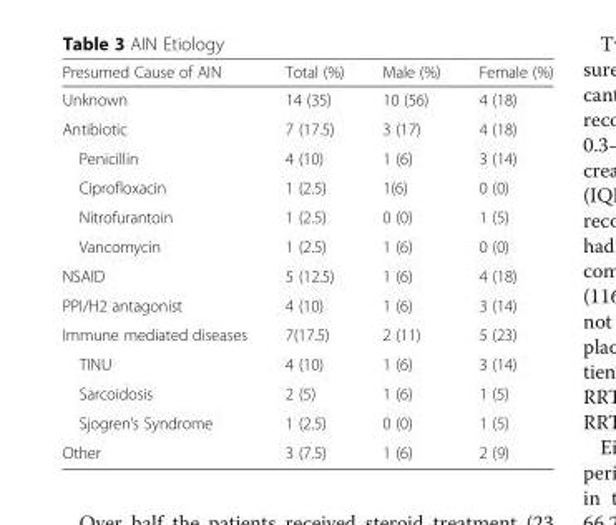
<table><thead><tr><td>Presumed Cause of AIN</td><td>Total (%)</td><td>Male (%)</td><td>Female (%)</td></tr></thead><tbody><tr><td>Unknown</td><td>14 (35)</td><td>10 (56)</td><td>4 (18)</td></tr><tr><td>Antibiotic</td><td>7 (17.5)</td><td>3 (17)</td><td>4 (18)</td></tr><tr><td>Penicillin</td><td>4 (10)</td><td>1 (6)</td><td>3 (14)</td></tr><tr><td>Ciprofloxacin</td><td>1 (2.5)</td><td>1(6)</td><td>0 (0)</td></tr><tr><td>Nitrofurantoin</td><td>1 (2.5)</td><td>0 (0)</td><td>1 (5)</td></tr><tr><td>Vancomycin</td><td>1 (2.5)</td><td>1 (6)</td><td>0 (0)</td></tr><tr><td>NSAID</td><td>5 (12.5)</td><td>1 (6)</td><td>4 (18)</td></tr><tr><td>PPI/H2 antagonist</td><td>4 (10)</td><td>1 (6)</td><td>3 (14)</td></tr><tr><td>Immune mediated diseases</td><td>7(17.5)</td><td>2 (11)</td><td>5 (23)</td></tr><tr><td>TINU</td><td>4 (10)</td><td>1 (6)</td><td>3 (14)</td></tr><tr><td>Sarcoidosis</td><td>2 (5)</td><td>1 (6)</td><td>1 (5)</td></tr><tr><td>Sjogren’s Syndrome</td><td>1 (2.5)</td><td>0 (0)</td><td>1 (5)</td></tr><tr><td>Other</td><td>3 (7.5)</td><td>1 (6)</td><td>2 (9)</td></tr></tbody></table>